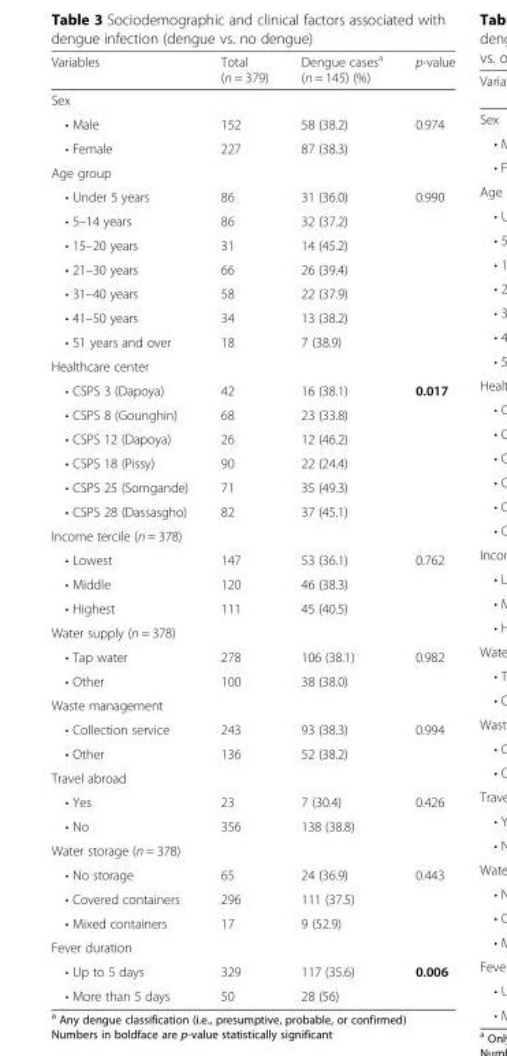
<table><thead><tr><td>Variables</td><td>Total (n = 379)</td><td>Dengue cases<sup>a</sup> (n = 145) (%)</td><td>p-value</td></tr></thead><tbody><tr><td colspan="4">Sex</td></tr><tr><td>• Male</td><td>152</td><td>58 (38.2)</td><td rowspan="2">0.974</td></tr><tr><td>• Female</td><td>227</td><td>87 (38.3)</td></tr><tr><td colspan="4">Age group</td></tr><tr><td>• Under 5 years</td><td>86</td><td>31 (36.0)</td><td rowspan="7">0.990</td></tr><tr><td>• 5–14 years</td><td>86</td><td>32 (37.2)</td></tr><tr><td>• 15–20 years</td><td>31</td><td>14 (45.2)</td></tr><tr><td>• 21–30 years</td><td>66</td><td>26 (39.4)</td></tr><tr><td>• 31–40 years</td><td>58</td><td>22 (37.9)</td></tr><tr><td>• 41–50 years</td><td>34</td><td>13 (38.2)</td></tr><tr><td>• 51 years and over</td><td>18</td><td>7 (38.9)</td></tr><tr><td colspan="4">Healthcare center</td></tr><tr><td>• CSPS 3 (Dapoya)</td><td>42</td><td>16 (38.1)</td><td rowspan="6">0.017</td></tr><tr><td>• CSPS 8 (Gounghin)</td><td>68</td><td>23 (33.8)</td></tr><tr><td>• CSPS 12 (Dapoya)</td><td>26</td><td>12 (46.2)</td></tr><tr><td>• CSPS 18 (Pissy)</td><td>90</td><td>22 (24.4)</td></tr><tr><td>• CSPS 25 (Somgande)</td><td>71</td><td>35 (49.3)</td></tr><tr><td>• CSPS 28 (Dassasgho)</td><td>82</td><td>37 (45.1)</td></tr><tr><td colspan="4">Income tercile (n = 378)</td></tr><tr><td>• Lowest</td><td>147</td><td>53 (36.1)</td><td rowspan="3">0.762</td></tr><tr><td>• Middle</td><td>120</td><td>46 (38.3)</td></tr><tr><td>• Highest</td><td>111</td><td>45 (40.5)</td></tr><tr><td colspan="4">Water supply (n = 378)</td></tr><tr><td>• Tap water</td><td>278</td><td>106 (38.1)</td><td rowspan="2">0.982</td></tr><tr><td>• Other</td><td>100</td><td>38 (38.0)</td></tr><tr><td colspan="4">Waste management</td></tr><tr><td>• Collection service</td><td>243</td><td>93 (38.3)</td><td rowspan="2">0.994</td></tr><tr><td>• Other</td><td>136</td><td>52 (38.2)</td></tr><tr><td colspan="4">Travel abroad</td></tr><tr><td>• Yes</td><td>23</td><td>7 (30.4)</td><td rowspan="2">0.426</td></tr><tr><td>• No</td><td>356</td><td>138 (38.8)</td></tr><tr><td colspan="4">Water storage (n = 378)</td></tr><tr><td>• No storage</td><td>65</td><td>24 (36.9)</td><td rowspan="3">0.443</td></tr><tr><td>• Covered containers</td><td>296</td><td>111 (37.5)</td></tr><tr><td>• Mixed containers</td><td>17</td><td>9 (52.9)</td></tr><tr><td colspan="4">Fever duration</td></tr><tr><td>• Up to 5 days</td><td>329</td><td>117 (35.6)</td><td rowspan="2">0.006</td></tr><tr><td>• More than 5 days</td><td>50</td><td>28 (56)</td></tr></tbody></table>